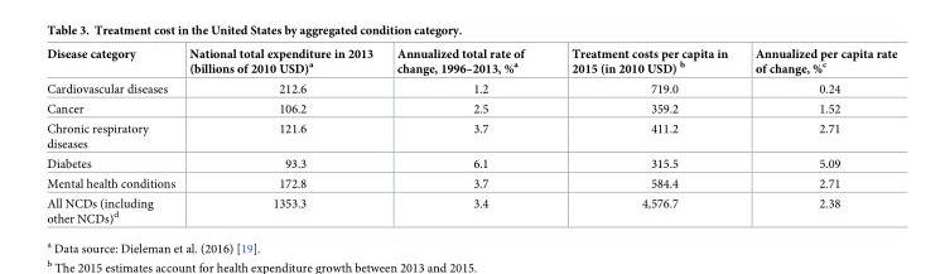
<table><thead><tr><td>Disease category</td><td>National total expenditure in 2013 (billions of 2010 USD)<sup>a</sup></td><td>Annualized total rate of change, 1996–2013, %<sup>a</sup></td><td>Treatment costs per capita in 2015 (in 2010 USD) <sup>b</sup></td><td>Annualized per capita rate of change, %<sup>c</sup></td></tr></thead><tbody><tr><td>Cardiovascular diseases</td><td>212.6</td><td>1.2</td><td>719.0</td><td>0.24</td></tr><tr><td>Cancer</td><td>106.2</td><td>2.5</td><td>359.2</td><td>1.52</td></tr><tr><td>Chronic respiratory diseases</td><td>121.6</td><td>3.7</td><td>411.2</td><td>2.71</td></tr><tr><td>Diabetes</td><td>93.3</td><td>6.1</td><td>315.5</td><td>5.09</td></tr><tr><td>Mental health conditions</td><td>172.8</td><td>3.7</td><td>584.4</td><td>2.71</td></tr><tr><td>All NCDs (including other NCDs)<sup>d</sup></td><td>1353.3</td><td>3.4</td><td>4,576.7</td><td>2.38</td></tr></tbody></table>